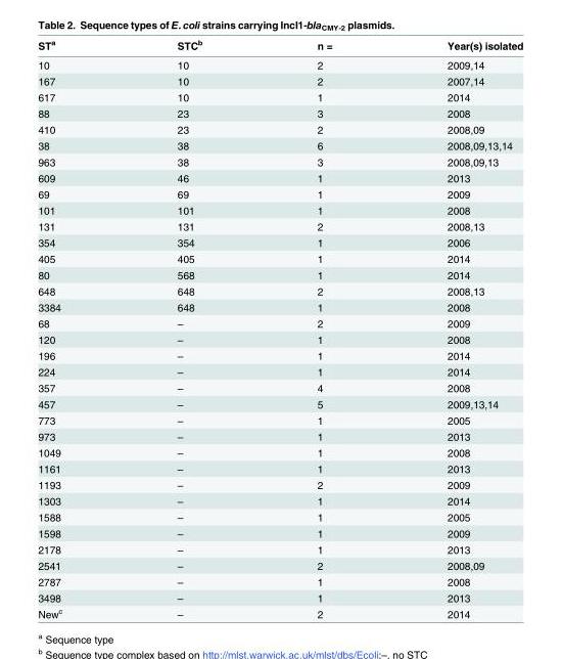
<table><thead><tr><td>ST<sup>a</sup></td><td>STC<sup>b</sup></td><td>n =</td><td>Year(s) isolated</td></tr></thead><tbody><tr><td>10</td><td>10</td><td>2</td><td>2009,14</td></tr><tr><td>167</td><td>10</td><td>2</td><td>2007,14</td></tr><tr><td>617</td><td>10</td><td>1</td><td>2014</td></tr><tr><td>88</td><td>23</td><td>3</td><td>2008</td></tr><tr><td>410</td><td>23</td><td>2</td><td>2008,09</td></tr><tr><td>38</td><td>38</td><td>6</td><td>2008,09,13,14</td></tr><tr><td>963</td><td>38</td><td>3</td><td>2008,09,13</td></tr><tr><td>609</td><td>46</td><td>1</td><td>2013</td></tr><tr><td>69</td><td>69</td><td>1</td><td>2009</td></tr><tr><td>101</td><td>101</td><td>1</td><td>2008</td></tr><tr><td>131</td><td>131</td><td>2</td><td>2008,13</td></tr><tr><td>354</td><td>354</td><td>1</td><td>2006</td></tr><tr><td>405</td><td>405</td><td>1</td><td>2014</td></tr><tr><td>80</td><td>568</td><td>1</td><td>2014</td></tr><tr><td>648</td><td>648</td><td>2</td><td>2008,13</td></tr><tr><td>3384</td><td>648</td><td>1</td><td>2008</td></tr><tr><td>68</td><td>–</td><td>2</td><td>2009</td></tr><tr><td>120</td><td>–</td><td>1</td><td>2008</td></tr><tr><td>196</td><td>–</td><td>1</td><td>2014</td></tr><tr><td>224</td><td>–</td><td>1</td><td>2014</td></tr><tr><td>357</td><td>–</td><td>4</td><td>2008</td></tr><tr><td>457</td><td>–</td><td>5</td><td>2009,13,14</td></tr><tr><td>773</td><td>–</td><td>1</td><td>2005</td></tr><tr><td>973</td><td>–</td><td>1</td><td>2013</td></tr><tr><td>1049</td><td>–</td><td>1</td><td>2008</td></tr><tr><td>1161</td><td>–</td><td>1</td><td>2013</td></tr><tr><td>1193</td><td>–</td><td>2</td><td>2009</td></tr><tr><td>1303</td><td>–</td><td>1</td><td>2014</td></tr><tr><td>1588</td><td>–</td><td>1</td><td>2005</td></tr><tr><td>1598</td><td>–</td><td>1</td><td>2009</td></tr><tr><td>2178</td><td>–</td><td>1</td><td>2013</td></tr><tr><td>2541</td><td>–</td><td>2</td><td>2008,09</td></tr><tr><td>2787</td><td>–</td><td>1</td><td>2008</td></tr><tr><td>3498</td><td>–</td><td>1</td><td>2013</td></tr><tr><td>New<sup>c</sup></td><td>–</td><td>2</td><td>2014</td></tr></tbody></table>